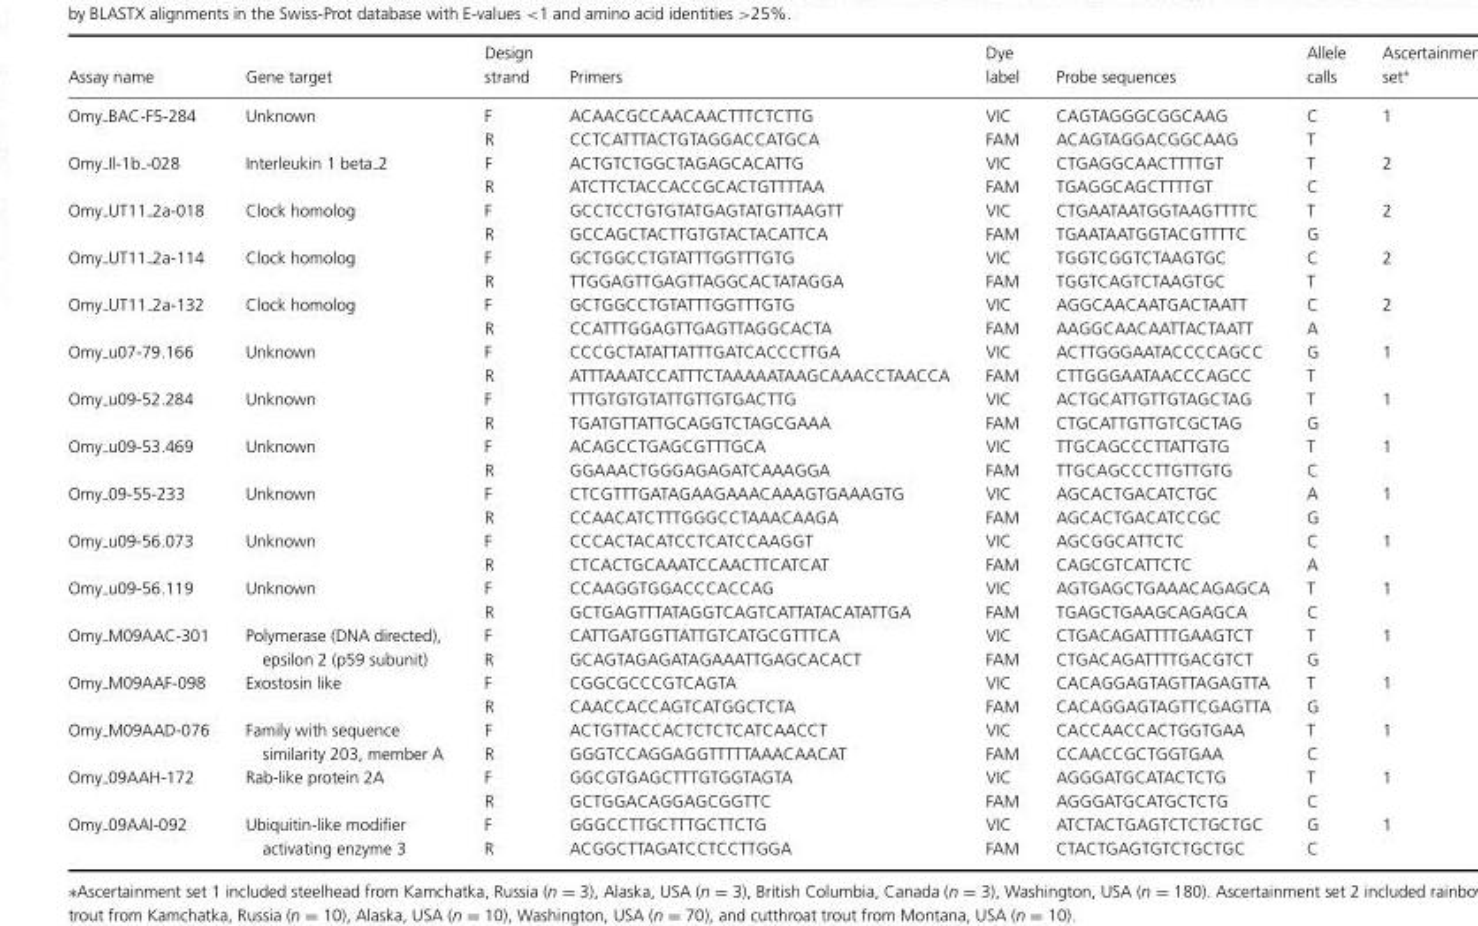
<table><thead><tr><td>Assay name</td><td>Gene target</td><td>strand</td><td>Primers</td><td>label</td><td>Probe sequences</td><td>calls</td><td>set∗</td></tr></thead><tbody><tr><td rowspan="2">Omy BAC-F5-284</td><td>Unknown</td><td>F</td><td>ACAACGCCAACAACTTTCTCTTG</td><td>VIC</td><td>CAGTAGGGCGGCAAG</td><td>C</td><td>1</td></tr><tr><td></td><td>R</td><td>CCTCATTTACTGTAGGACCATGCA</td><td>FAM</td><td>ACAGTAGGACGGCAAG</td><td>T</td><td></td></tr><tr><td rowspan="2">Omy <sub>Il-1b</sub> -028</td><td>Interleukin 1 beta 2</td><td>F</td><td>ACTGTCTGGCTAGAGCACATTG</td><td>VIC</td><td>CTGAGGCAACTTTTGT</td><td>T</td><td>2</td></tr><tr><td></td><td>R</td><td>ATCTTCTACCACCGCACTGTTTTAA</td><td>FAM</td><td>TGAGGCAGCTTTTGT</td><td>C</td><td></td></tr><tr><td rowspan="2">Omy <sub>UT11</sub> 2a-018</td><td>Clock homolog</td><td>F</td><td>GCCTCCTGTGTATGAGTATGTTAAGTT</td><td>VIC</td><td>CTGAATAATGGTAAGTTTTC</td><td>T</td><td>2</td></tr><tr><td></td><td>R</td><td>GCCAGCTACTTGTGTACTACATTCA</td><td>FAM</td><td>TGAATAATGGTACGTTTTC</td><td>G</td><td></td></tr><tr><td rowspan="2">Omy <sub>UT11</sub> 2a-114</td><td>Clock homolog</td><td>F</td><td>GCTGGCCTGTATTTGGTTTGTG</td><td>VIC</td><td>TGGTCGGTCTAAGTGC</td><td>C</td><td>2</td></tr><tr><td></td><td>R</td><td>TTGGAGTTGAGTTAGGCACTATAGGA</td><td>FAM</td><td>TGGTCAGTCTAAGTGC</td><td>T</td><td></td></tr><tr><td rowspan="2">Omy <sub>UT11</sub> 2a-132</td><td>Clock homolog</td><td>F</td><td>GCTGGCCTGTATTTGGTTTGTG</td><td>VIC</td><td>AGGCAACAATGACTAATT</td><td>C</td><td>2</td></tr><tr><td></td><td>R</td><td>CCATTTGGAGTTGAGTTAGGCACTA</td><td>FAM</td><td>AAGGCAACAATTACTAATT</td><td>A</td><td></td></tr><tr><td rowspan="2">Omy u07-79.166</td><td>Unknown</td><td>F</td><td>CCCGCTATATTATTTGATCACCCTTGA</td><td>VIC</td><td>ACTTGGGAATACCCCAGCC</td><td>G</td><td>1</td></tr><tr><td></td><td>R</td><td>ATTTAAATCCATTTCTAAAAATAAGCAAACCTAACCA</td><td>FAM</td><td>CTTGGGAATAACCCAGCC</td><td>T</td><td></td></tr><tr><td rowspan="2">Omy u09-52.284</td><td>Unknown</td><td>F</td><td>TTTGTGTGTATTGTTGTGACTTG</td><td>VIC</td><td>ACTGCATTGTTGTAGCTAG</td><td>T</td><td>1</td></tr><tr><td></td><td>R</td><td>TGATGTTATTGCAGGTCTAGCGAAA</td><td>FAM</td><td>CTGCATTGTTGTCGCTAG</td><td>G</td><td></td></tr><tr><td rowspan="2">Omy u09-53.469</td><td>Unknown</td><td>F</td><td>ACAGCCTGAGCGTTTGCA</td><td>VIC</td><td>TTGCAGCCCTTATTGTG</td><td>T</td><td>1</td></tr><tr><td></td><td>R</td><td>GGAAACTGGGAGAGATCAAAGGA</td><td>FAM</td><td>TTGCAGCCCTTGTTGTG</td><td>C</td><td></td></tr><tr><td rowspan="2">Omy 09-55-233</td><td>Unknown</td><td>F</td><td>CTCGTTTGATAGAAGAAACAAAGTGAAAGTG</td><td>VIC</td><td>AGCACTGACATCTGC</td><td>A</td><td>1</td></tr><tr><td></td><td>R</td><td>CCAACATCTTTGGGCCTAAACAAGA</td><td>FAM</td><td>AGCACTGACATCCGC</td><td>G</td><td></td></tr><tr><td rowspan="2">Omy u09-56.073</td><td>Unknown</td><td>F</td><td>CCCACTACATCCTCATCCAAGGT</td><td>VIC</td><td>AGCGGCATTCTC</td><td>C</td><td>1</td></tr><tr><td></td><td>R</td><td>CTCACTGCAAATCCAACTTCATCAT</td><td>FAM</td><td>CAGCGTCATTCTC</td><td>A</td><td></td></tr><tr><td rowspan="2">Omy u09-56.119</td><td>Unknown</td><td>F</td><td>CCAAGGTGGACCCACCAG</td><td>VIC</td><td>AGTGAGCTGAAACAGAGCA</td><td>T</td><td>1</td></tr><tr><td></td><td>R</td><td>GCTGAGTTTATAGGTCAGTCATTATACATATTGA</td><td>FAM</td><td>TGAGCTGAAGCAGAGCA</td><td>C</td><td></td></tr><tr><td rowspan="2">Omy M09AAC-301</td><td>Polymerase (DNA directed),</td><td>F</td><td>CATTGATGGTTATTGTCATGCGTTTCA</td><td>VIC</td><td>CTGACAGATTTTGAAGTCT</td><td>T</td><td>1</td></tr><tr><td>epsilon 2 (p59 subunit)</td><td>R</td><td>GCAGTAGAGATAGAAATTGAGCACACT</td><td>FAM</td><td>CTGACAGATTTTGACGTCT</td><td>G</td><td></td></tr><tr><td rowspan="2">Omy M09AAF-098</td><td>Exostosin like</td><td>F</td><td>CGGCGCCCGTCAGTA</td><td>VIC</td><td>CACAGGAGTAGTTAGAGTTA</td><td>T</td><td>1</td></tr><tr><td></td><td>R</td><td>CAACCACCAGTCATGGCTCTA</td><td>FAM</td><td>CACAGGAGTAGTTCGAGTTA</td><td>G</td><td></td></tr><tr><td rowspan="2">Omy M09AAD-076</td><td>Family with sequence</td><td>F</td><td>ACTGTTACCACTCTCTCATCAACCT</td><td>VIC</td><td>CACCAACCACTGGTGAA</td><td>T</td><td>1</td></tr><tr><td>similarity 203, member A</td><td>R</td><td>GGGTCCAGGAGGTTTTTAAACAACAT</td><td>FAM</td><td>CCAACCGCTGGTGAA</td><td>C</td><td></td></tr><tr><td rowspan="2">Omy 09AAH-172</td><td>Rab-like protein 2A</td><td>F</td><td>GGCGTGAGCTTTGTGGTAGTA</td><td>VIC</td><td>AGGGATGCATACTCTG</td><td>T</td><td>1</td></tr><tr><td></td><td>R</td><td>GCTGGACAGGAGCGGTTC</td><td>FAM</td><td>AGGGATGCATGCTCTG</td><td>C</td><td></td></tr><tr><td rowspan="2">Omy 09AAI-092</td><td>Ubiquitin-like modifier</td><td>F</td><td>GGGCCTTGCTTTGCTTCTG</td><td>VIC</td><td>ATCTACTGAGTCTCTGCTGC</td><td>G</td><td>1</td></tr><tr><td>activating enzyme 3</td><td>R</td><td>ACGGCTTAGATCCTCCTTGGA</td><td>FAM</td><td>CTACTGAGTGTCTGCTGC</td><td>C</td><td></td></tr></tbody></table>